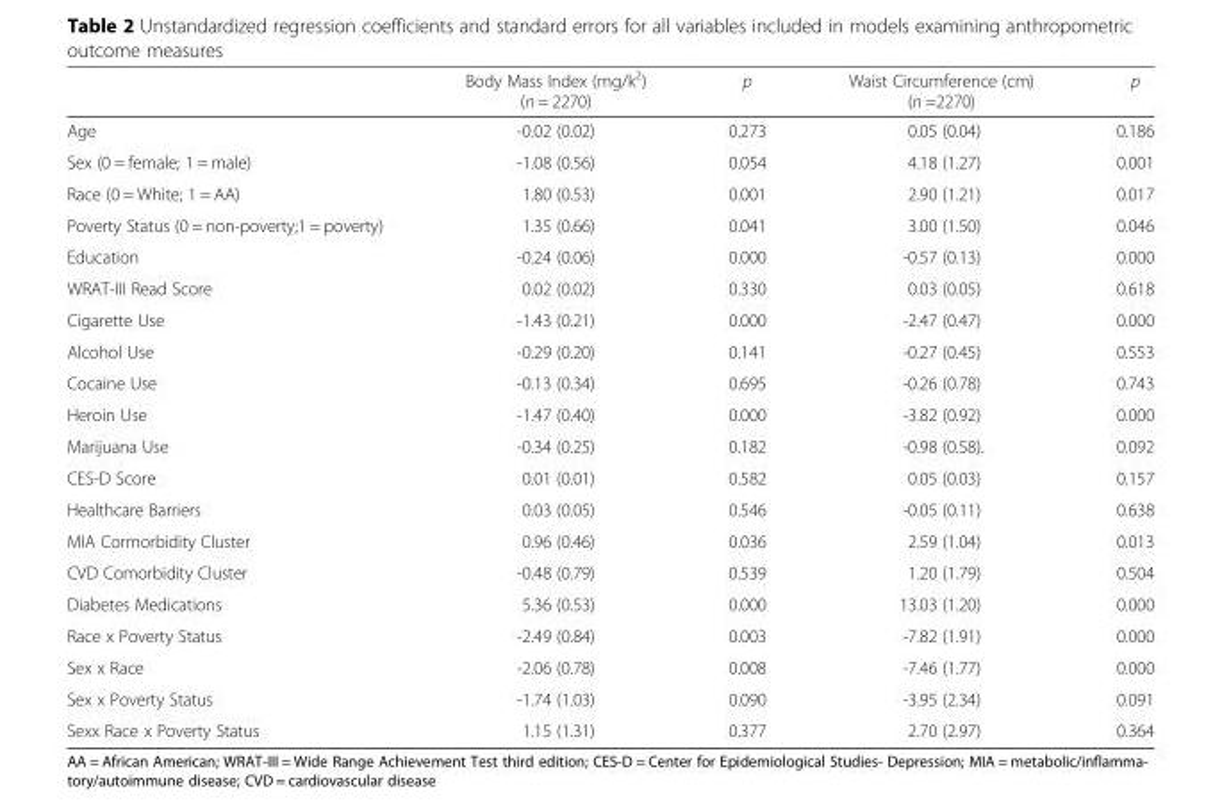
<table><thead><tr><td></td><td>Body Mass Index (mg/k<sup>2</sup>) (n = 2270)</td><td>p</td><td>Waist Circumference (cm) (n =2270)</td><td>p</td></tr></thead><tbody><tr><td>Age</td><td>-0.02 (0.02)</td><td>0.273</td><td>0.05 (0.04)</td><td>0.186</td></tr><tr><td>Sex (0 = female; 1 = male)</td><td>-1.08 (0.56)</td><td>0.054</td><td>4.18 (1.27)</td><td>0.001</td></tr><tr><td>Race (0 = White; 1 = AA)</td><td>1.80 (0.53)</td><td>0.001</td><td>2.90 (1.21)</td><td>0.017</td></tr><tr><td>Poverty Status (0 = non-poverty;1 = poverty)</td><td>1.35 (0.66)</td><td>0.041</td><td>3.00 (1.50)</td><td>0.046</td></tr><tr><td>Education</td><td>-0.24 (0.06)</td><td>0.000</td><td>-0.57 (0.13)</td><td>0.000</td></tr><tr><td>WRAT-III Read Score</td><td>0.02 (0.02)</td><td>0.330</td><td>0.03 (0.05)</td><td>0.618</td></tr><tr><td>Cigarette Use</td><td>-1.43 (0.21)</td><td>0.000</td><td>-2.47 (0.47)</td><td>0.000</td></tr><tr><td>Alcohol Use</td><td>-0.29 (0.20)</td><td>0.141</td><td>-0.27 (0.45)</td><td>0.553</td></tr><tr><td>Cocaine Use</td><td>-0.13 (0.34)</td><td>0.695</td><td>-0.26 (0.78)</td><td>0.743</td></tr><tr><td>Heroin Use</td><td>-1.47 (0.40)</td><td>0.000</td><td>-3.82 (0.92)</td><td>0.000</td></tr><tr><td>Marijuana Use</td><td>-0.34 (0.25)</td><td>0.182</td><td>-0.98 (0.58).</td><td>0.092</td></tr><tr><td>CES-D Score</td><td>0.01 (0.01)</td><td>0.582</td><td>0.05 (0.03)</td><td>0.157</td></tr><tr><td>Healthcare Barriers</td><td>0.03 (0.05)</td><td>0.546</td><td>-0.05 (0.11)</td><td>0.638</td></tr><tr><td>MIA Cormorbidity Cluster</td><td>0.96 (0.46)</td><td>0.036</td><td>2.59 (1.04)</td><td>0.013</td></tr><tr><td>CVD Comorbidity Cluster</td><td>-0.48 (0.79)</td><td>0.539</td><td>1.20 (1.79)</td><td>0.504</td></tr><tr><td>Diabetes Medications</td><td>5.36 (0.53)</td><td>0.000</td><td>13.03 (1.20)</td><td>0.000</td></tr><tr><td>Race x Poverty Status</td><td>-2.49 (0.84)</td><td>0.003</td><td>-7.82 (1.91)</td><td>0.000</td></tr><tr><td>Sex x Race</td><td>-2.06 (0.78)</td><td>0.008</td><td>-7.46 (1.77)</td><td>0.000</td></tr><tr><td>Sex x Poverty Status</td><td>-1.74 (1.03)</td><td>0.090</td><td>-3.95 (2.34)</td><td>0.091</td></tr><tr><td>Sexx Race x Poverty Status</td><td>1.15 (1.31)</td><td>0.377</td><td>2.70 (2.97)</td><td>0.364</td></tr></tbody></table>